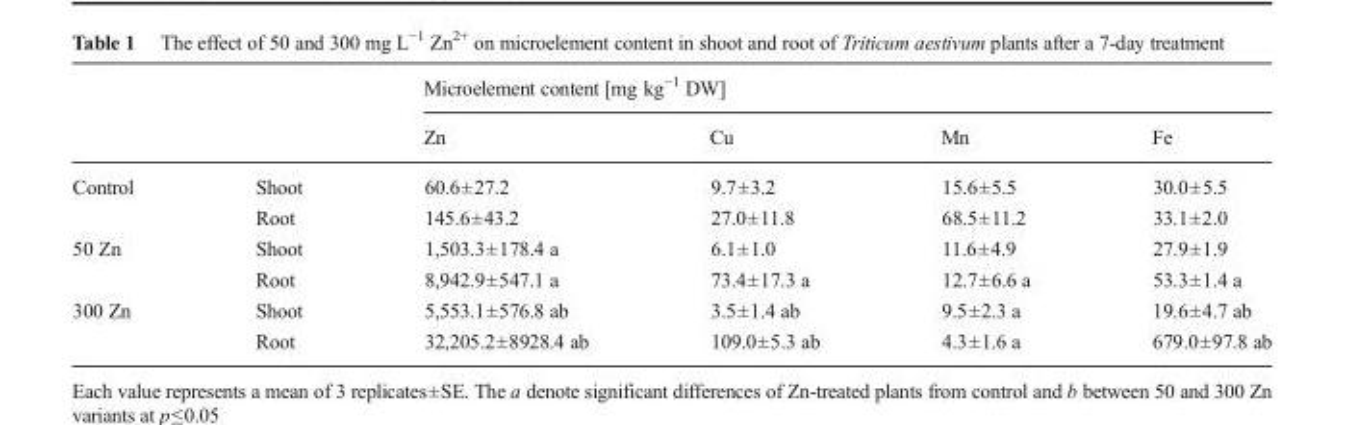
<table><thead><tr><td rowspan="2"></td><td rowspan="2"></td><td colspan="4">Microelement content [mg kg<sup>−1</sup> DW]</td></tr><tr><td>Zn</td><td>Cu</td><td>Mn</td><td>Fe</td></tr></thead><tbody><tr><td rowspan="2">Control</td><td>Shoot</td><td>60.6±27.2</td><td>9.7±3.2</td><td>15.6±5.5</td><td>30.0±5.5</td></tr><tr><td>Root</td><td>145.6±43.2</td><td>27.0±11.8</td><td>68.5±11.2</td><td>33.1±2.0</td></tr><tr><td rowspan="2">50 Zn</td><td>Shoot</td><td>1,503.3±178.4 a</td><td>6.1±1.0</td><td>11.6±4.9</td><td>27.9±1.9</td></tr><tr><td>Root</td><td>8,942.9±547.1 a</td><td>73.4±17.3 a</td><td>12.7±6.6 a</td><td>53.3±1.4 a</td></tr><tr><td rowspan="2">300 Zn</td><td>Shoot</td><td>5,553.1±576.8 ab</td><td>3.5±1.4 ab</td><td>9.5±2.3 a</td><td>19.6±4.7 ab</td></tr><tr><td>Root</td><td>32,205.2±8928.4 ab</td><td>109.0±5.3 ab</td><td>4.3±1.6 a</td><td>679.0±97.8 ab</td></tr></tbody></table>